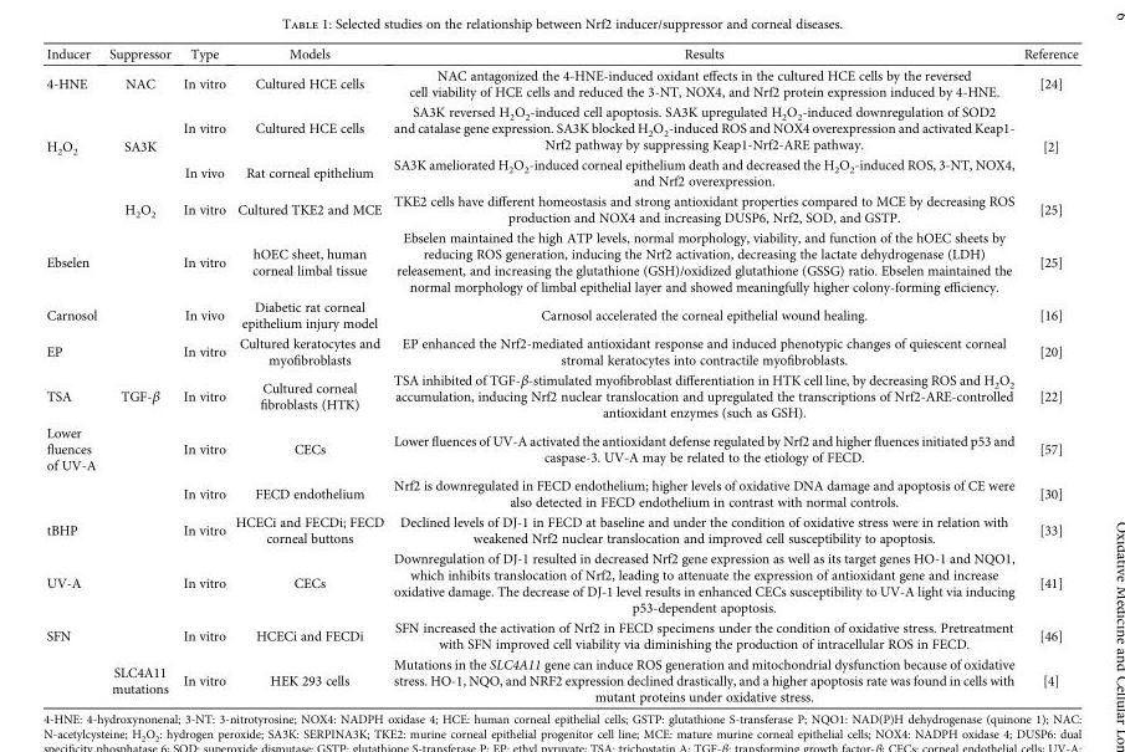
<table><thead><tr><td>Inducer</td><td>Suppressor</td><td>Type</td><td>Models</td><td>Results</td><td>Reference</td></tr></thead><tbody><tr><td>4-HNE</td><td>NAC</td><td>In vitro</td><td>Cultured HCE cells</td><td>NAC antagonized the 4-HNE-induced oxidant effects in the cultured HCE cells by the reversed cell viability of HCE cells and reduced the 3-NT, NOX4, and Nrf2 protein expression induced by 4-HNE.</td><td>[24]</td></tr><tr><td rowspan="3">H<sub>2</sub>O<sub>2</sub></td><td rowspan="2">SA3K</td><td>In vitro</td><td>Cultured HCE cells</td><td>SA3K reversed H<sub>2</sub>O<sub>2</sub>-induced cell apoptosis. SA3K upregulated H<sub>2</sub>O<sub>2</sub>-induced downregulation of SOD2 and catalase gene expression. SA3K blocked H<sub>2</sub>O<sub>2</sub>-induced ROS and NOX4 overexpression and activated Keap1- Nrf2 pathway by suppressing Keap1-Nrf2-ARE pathway.</td><td rowspan="2">[2]</td></tr><tr><td>In vivo</td><td>Rat corneal epithelium</td><td>SA3K ameliorated H<sub>2</sub>O<sub>2</sub>-induced corneal epithelium death and decreased the H<sub>2</sub>O<sub>2</sub>-induced ROS, 3-NT, NOX4, and Nrf2 overexpression.</td></tr><tr><td>H<sub>2</sub>O<sub>2</sub></td><td>In vitro</td><td>Cultured TKE2 and MCE</td><td>TKE2 cells have different homeostasis and strong antioxidant properties compared to MCE by decreasing ROS production and NOX4 and increasing DUSP6, Nrf2, SOD, and GSTP.</td><td>[25]</td></tr><tr><td>Ebselen</td><td></td><td>In vitro</td><td>hOEC sheet, human corneal limbal tissue</td><td>Ebselen maintained the high ATP levels, normal morphology, viability, and function of the hOEC sheets by reducing ROS generation, inducing the Nrf2 activation, decreasing the lactate dehydrogenase (LDH) releasement, and increasing the glutathione (GSH)/oxidized glutathione (GSSG) ratio. Ebselen maintained the normal morphology of limbal epithelial layer and showed meaningfully higher colony-forming efficiency.</td><td>[25]</td></tr><tr><td>Carnosol</td><td></td><td>In vivo</td><td>Diabetic rat corneal epithelium injury model</td><td>Carnosol accelerated the corneal epithelial wound healing.</td><td>[16]</td></tr><tr><td>EP</td><td></td><td>In vitro</td><td>Cultured keratocytes and myofibroblasts</td><td>EP enhanced the Nrf2-mediated antioxidant response and induced phenotypic changes of quiescent corneal stromal keratocytes into contractile myofibroblasts.</td><td>[20]</td></tr><tr><td>TSA</td><td>TGF-β</td><td>In vitro</td><td>Cultured corneal fibroblasts (HTK)</td><td>TSA inhibited of TGF-β-stimulated myofibroblast differentiation in HTK cell line, by decreasing ROS and H<sub>2</sub>O<sub>2</sub> accumulation, inducing Nrf2 nuclear translocation and upregulated the transcriptions of Nrf2-ARE-controlled antioxidant enzymes (such as GSH).</td><td>[22]</td></tr><tr><td rowspan="2">Lower fluences of UV-A</td><td></td><td>In vitro</td><td>CECs</td><td>Lower fluences of UV-A activated the antioxidant defense regulated by Nrf2 and higher fluences initiated p53 and caspase-3. UV-A may be related to the etiology of FECD.</td><td>[57]</td></tr><tr><td></td><td>In vitro</td><td>FECD endothelium</td><td>Nrf2 is downregulated in FECD endothelium; higher levels of oxidative DNA damage and apoptosis of CE were also detected in FECD endothelium in contrast with normal controls.</td><td>[30]</td></tr><tr><td>tBHP</td><td></td><td>In vitro</td><td>HCECi and FECDi; FECD corneal buttons</td><td>Declined levels of DJ-1 in FECD at baseline and under the condition of oxidative stress were in relation with weakened Nrf2 nuclear translocation and improved cell susceptibility to apoptosis.</td><td>[33]</td></tr><tr><td>UV-A</td><td></td><td>In vitro</td><td>CECs</td><td>Downregulation of DJ-1 resulted in decreased Nrf2 gene expression as well as its target genes HO-1 and NQO1, which inhibits translocation of Nrf2, leading to attenuate the expression of antioxidant gene and increase oxidative damage. The decrease of DJ-1 level results in enhanced CECs susceptibility to UV-A light via inducing p53-dependent apoptosis.</td><td>[41]</td></tr><tr><td rowspan="2">SFN</td><td></td><td>In vitro</td><td>HCECi and FECDi</td><td>SFN increased the activation of Nrf2 in FECD specimens under the condition of oxidative stress. Pretreatment with SFN improved cell viability via diminishing the production of intracellular ROS in FECD.</td><td>[46]</td></tr><tr><td>SLC4A11 mutations</td><td>In vitro</td><td>HEK 293 cells</td><td>Mutations in the SLC4A11 gene can induce ROS generation and mitochondrial dysfunction because of oxidative stress. HO-1, NQO, and NRF2 expression declined drastically, and a higher apoptosis rate was found in cells with mutant proteins under oxidative stress.</td><td>[4]</td></tr></tbody></table>